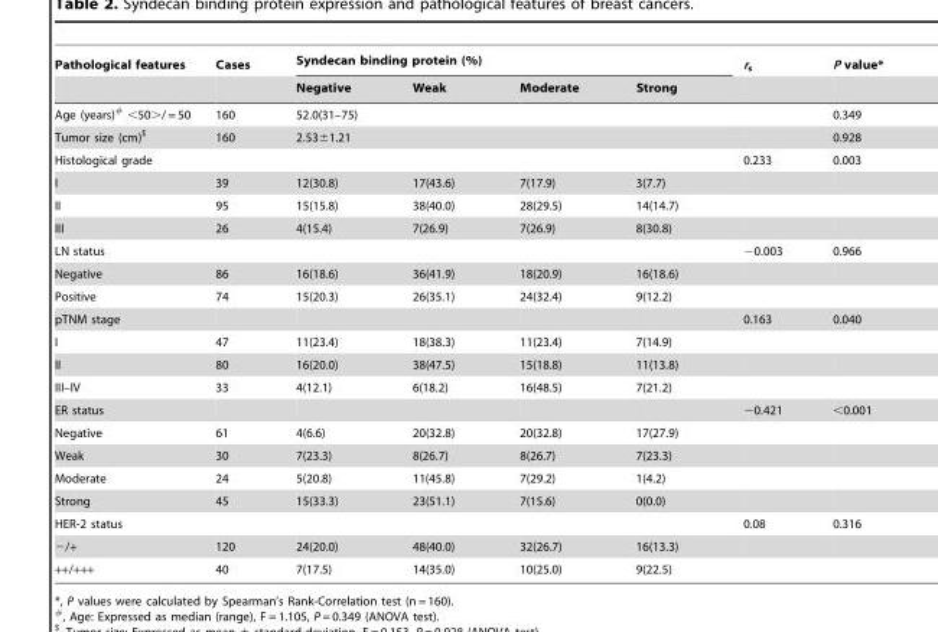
<table><thead><tr><td rowspan="2">Pathological features</td><td rowspan="2">Cases</td><td colspan="4">Syndecan binding protein (%)</td><td rowspan="2">r<sub>s</sub></td><td rowspan="2">P value*</td></tr><tr><td>Negative</td><td>Weak</td><td>Moderate</td><td>Strong</td></tr></thead><tbody><tr><td>Age (years)# &lt;50&gt;/ = 50</td><td>160</td><td colspan="4">52.0(31–75)</td><td></td><td>0.349</td></tr><tr><td>Tumor size (cm)$</td><td>160</td><td colspan="4">2.53±1.21</td><td></td><td>0.928</td></tr><tr><td>Histological grade</td><td></td><td></td><td></td><td></td><td></td><td>0.233</td><td>0.003</td></tr><tr><td>I</td><td>39</td><td>12(30.8)</td><td>17(43.6)</td><td>7(17.9)</td><td>3(7.7)</td><td></td><td></td></tr><tr><td>II</td><td>95</td><td>15(15.8)</td><td>38(40.0)</td><td>28(29.5)</td><td>14(14.7)</td><td></td><td></td></tr><tr><td>III</td><td>26</td><td>4(15.4)</td><td>7(26.9)</td><td>7(26.9)</td><td>8(30.8)</td><td></td><td></td></tr><tr><td>LN status</td><td></td><td></td><td></td><td></td><td></td><td>−0.003</td><td>0.966</td></tr><tr><td>Negative</td><td>86</td><td>16(18.6)</td><td>36(41.9)</td><td>18(20.9)</td><td>16(18.6)</td><td></td><td></td></tr><tr><td>Positive</td><td>74</td><td>15(20.3)</td><td>26(35.1)</td><td>24(32.4)</td><td>9(12.2)</td><td></td><td></td></tr><tr><td>pTNM stage</td><td></td><td></td><td></td><td></td><td></td><td>0.163</td><td>0.040</td></tr><tr><td>I</td><td>47</td><td>11(23.4)</td><td>18(38.3)</td><td>11(23.4)</td><td>7(14.9)</td><td></td><td></td></tr><tr><td>II</td><td>80</td><td>16(20.0)</td><td>38(47.5)</td><td>15(18.8)</td><td>11(13.8)</td><td></td><td></td></tr><tr><td>III–IV</td><td>33</td><td>4(12.1)</td><td>6(18.2)</td><td>16(48.5)</td><td>7(21.2)</td><td></td><td></td></tr><tr><td>ER status</td><td></td><td></td><td></td><td></td><td></td><td>−0.421</td><td>&lt;0.001</td></tr><tr><td>Negative</td><td>61</td><td>4(6.6)</td><td>20(32.8)</td><td>20(32.8)</td><td>17(27.9)</td><td></td><td></td></tr><tr><td>Weak</td><td>30</td><td>7(23.3)</td><td>8(26.7)</td><td>8(26.7)</td><td>7(23.3)</td><td></td><td></td></tr><tr><td>Moderate</td><td>24</td><td>5(20.8)</td><td>11(45.8)</td><td>7(29.2)</td><td>1(4.2)</td><td></td><td></td></tr><tr><td>Strong</td><td>45</td><td>15(33.3)</td><td>23(51.1)</td><td>7(15.6)</td><td>0(0.0)</td><td></td><td></td></tr><tr><td>HER-2 status</td><td></td><td></td><td></td><td></td><td></td><td>0.08</td><td>0.316</td></tr><tr><td>−/+</td><td>120</td><td>24(20.0)</td><td>48(40.0)</td><td>32(26.7)</td><td>16(13.3)</td><td></td><td></td></tr><tr><td>++/+++</td><td>40</td><td>7(17.5)</td><td>14(35.0)</td><td>10(25.0)</td><td>9(22.5)</td><td></td><td></td></tr></tbody></table>